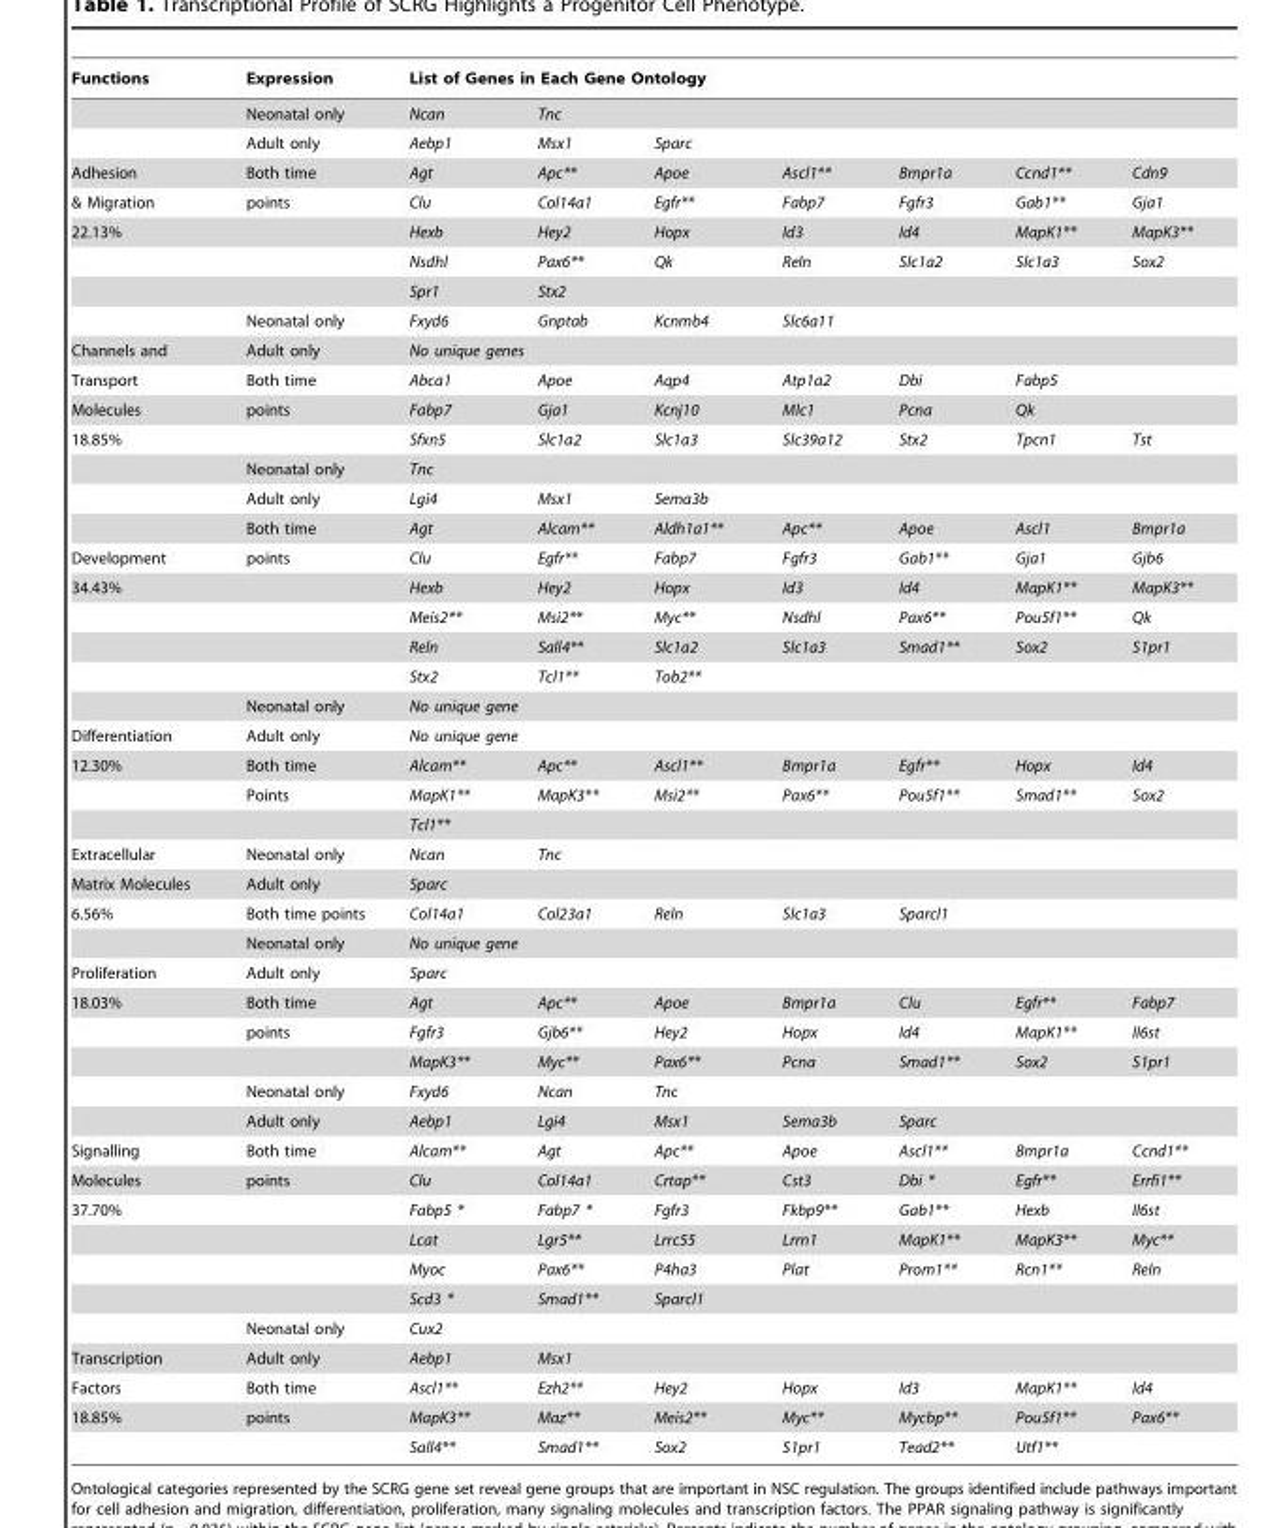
<table><thead><tr><td rowspan="2">Functions</td><td rowspan="2">Expression Neonatal only</td><td colspan="7">List of Genes in Each Gene Ontology</td></tr><tr><td>Ncan</td><td>Tnc</td><td></td><td></td><td></td><td></td><td></td></tr></thead><tbody><tr><td></td><td>Adult only</td><td>Aebp1</td><td>Msx1</td><td>Sparc</td><td></td><td></td><td></td><td></td></tr><tr><td>Adhesion</td><td>Both time</td><td>Agt</td><td>Apc**</td><td>Apoe</td><td>Ascl1**</td><td>Bmpr1a</td><td>Ccnd1**</td><td>Cdn9</td></tr><tr><td>&amp; Migration</td><td>points</td><td>Clu</td><td>Col14a1</td><td>Egfr**</td><td>Fabp7</td><td>Fgfr3</td><td>Gab1**</td><td>Gja1</td></tr><tr><td rowspan="4">22.13%</td><td></td><td>Hexb</td><td>Hey2</td><td>Hopx</td><td>Id3</td><td>Id4</td><td>MapK1**</td><td>MapK3**</td></tr><tr><td></td><td>Nsdhl</td><td>Pax6**</td><td>Qk</td><td>Reln</td><td>Slc1a2</td><td>Slc1a3</td><td>Sox2</td></tr><tr><td></td><td>Spr1</td><td>Stx2</td><td></td><td></td><td></td><td></td><td></td></tr><tr><td>Neonatal only</td><td>Fxyd6</td><td>Gnptab</td><td>Kcnmb4</td><td>Slc6a11</td><td></td><td></td><td></td></tr><tr><td>Channels and</td><td>Adult only</td><td colspan="2">No unique genes</td><td></td><td></td><td></td><td></td><td></td></tr><tr><td>Transport</td><td>Both time</td><td>Abca1</td><td>Apoe</td><td>Aqp4</td><td>Atp1a2</td><td>Dbi</td><td>Fabp5</td><td></td></tr><tr><td>Molecules</td><td>points</td><td>Fabp7</td><td>Gja1</td><td>Kcnj10</td><td>Mlc1</td><td>Pcna</td><td>Qk</td><td></td></tr><tr><td rowspan="4">18.85%</td><td></td><td>Sfxn5</td><td>Slc1a2</td><td>Slc1a3</td><td>Slc39a12</td><td>Stx2</td><td>Tpcn1</td><td>Tst</td></tr><tr><td>Neonatal only</td><td>Tnc</td><td></td><td></td><td></td><td></td><td></td><td></td></tr><tr><td>Adult only</td><td>Lgi4</td><td>Msx1</td><td>Sema3b</td><td></td><td></td><td></td><td></td></tr><tr><td>Both time</td><td>Agt</td><td>Alcam**</td><td>Aldh1a1**</td><td>Apc**</td><td>Apoe</td><td>Ascl1</td><td>Bmpr1a</td></tr><tr><td>Development</td><td>points</td><td>Clu</td><td>Egfr**</td><td>Fabp7</td><td>Fgfr3</td><td>Gab1**</td><td>Gja1</td><td>Gjb6</td></tr><tr><td rowspan="5">34.43%</td><td></td><td>Hexb</td><td>Hey2</td><td>Hopx</td><td>Id3</td><td>Id4</td><td>MapK1**</td><td>MapK3**</td></tr><tr><td></td><td>Meis2**</td><td>Msi2**</td><td>Myc**</td><td>Nsdhl</td><td>Pax6**</td><td>Pou5f1**</td><td>Qk</td></tr><tr><td></td><td>Reln</td><td>Sall4**</td><td>Slc1a2</td><td>Slc1a3</td><td>Smad1**</td><td>Sox2</td><td>S1pr1</td></tr><tr><td></td><td>Stx2</td><td>Tcl1**</td><td>Tob2**</td><td></td><td></td><td></td><td></td></tr><tr><td>Neonatal only</td><td colspan="2">No unique gene</td><td></td><td></td><td></td><td></td><td></td></tr><tr><td>Differentiation</td><td>Adult only</td><td colspan="2">No unique gene</td><td></td><td></td><td></td><td></td><td></td></tr><tr><td rowspan="3">12.30%</td><td>Both time</td><td>Alcam**</td><td>Apc**</td><td>Ascl1**</td><td>Bmpr1a</td><td>Egfr**</td><td>Hopx</td><td>Id4</td></tr><tr><td>Points</td><td>MapK1**</td><td>MapK3**</td><td>Msi2**</td><td>Pax6**</td><td>Pou5f1**</td><td>Smad1**</td><td>Sox2</td></tr><tr><td></td><td>Tcl1**</td><td></td><td></td><td></td><td></td><td></td><td></td></tr><tr><td>Extracellular</td><td>Neonatal only</td><td>Ncan</td><td>Tnc</td><td></td><td></td><td></td><td></td><td></td></tr><tr><td>Matrix Molecules</td><td>Adult only</td><td>Sparc</td><td></td><td></td><td></td><td></td><td></td><td></td></tr><tr><td rowspan="2">6.56%</td><td>Both time points</td><td>Col14a1</td><td>Col23a1</td><td>Reln</td><td>Slc1a3</td><td>Sparcl1</td><td></td><td></td></tr><tr><td>Neonatal only</td><td colspan="2">No unique gene</td><td></td><td></td><td></td><td></td><td></td></tr><tr><td>Proliferation</td><td>Adult only</td><td>Sparc</td><td></td><td></td><td></td><td></td><td></td><td></td></tr><tr><td rowspan="5">18.03%</td><td>Both time</td><td>Agt</td><td>Apc**</td><td>Apoe</td><td>Bmpr1a</td><td>Clu</td><td>Egfr**</td><td>Fabp7</td></tr><tr><td>points</td><td>Fgfr3</td><td>Gjb6**</td><td>Hey2</td><td>Hopx</td><td>Id4</td><td>MapK1**</td><td>II6st</td></tr><tr><td></td><td>MapK3**</td><td>Myc**</td><td>Pax6**</td><td>Pcna</td><td>Smad1**</td><td>Sox2</td><td>S1pr1</td></tr><tr><td>Neonatal only</td><td>Fxyd6</td><td>Ncan</td><td>Tnc</td><td></td><td></td><td></td><td></td></tr><tr><td>Adult only</td><td>Aebp1</td><td>Lgi4</td><td>Msx1</td><td>Sema3b</td><td>Sparc</td><td></td><td></td></tr><tr><td>Signalling</td><td>Both time</td><td>Alcam**</td><td>Agt</td><td>Apc**</td><td>Apoe</td><td>Ascl1**</td><td>Bmpr1a</td><td>Ccnd1**</td></tr><tr><td>Molecules</td><td>points</td><td>Clu</td><td>Col14a1</td><td>Crtap**</td><td>Cst3</td><td>Dbi *</td><td>Egfr**</td><td>Errfi1**</td></tr><tr><td rowspan="5">37.70%</td><td></td><td>Fabp5 *</td><td>Fabp7 *</td><td>Fgfr3</td><td>Fkbp9**</td><td>Gab1**</td><td>Hexb</td><td>Il6st</td></tr><tr><td></td><td>Lcat</td><td>Lgr5**</td><td>Lrrc55</td><td>Lrrn1</td><td>MapK1**</td><td>MapK3**</td><td>Myc**</td></tr><tr><td></td><td>Myoc</td><td>Pax6**</td><td>P4ha3</td><td>Plat</td><td>Prom1**</td><td>Rcn1**</td><td>Reln</td></tr><tr><td></td><td>Scd3 *</td><td>Smad1**</td><td>Sparcl1</td><td></td><td></td><td></td><td></td></tr><tr><td>Neonatal only</td><td>Cux2</td><td></td><td></td><td></td><td></td><td></td><td></td></tr><tr><td>Transcription</td><td>Adult only</td><td>Aebp1</td><td>Msx1</td><td></td><td></td><td></td><td></td><td></td></tr><tr><td>Factors</td><td>Both time</td><td>Ascl1**</td><td>Ezh2**</td><td>Hey2</td><td>Hopx</td><td>Id3</td><td>MapK1**</td><td>Id4</td></tr><tr><td rowspan="2">18.85%</td><td>points</td><td>MapK3**</td><td>Maz**</td><td>Meis2**</td><td>Myc**</td><td>Mycbp**</td><td>Pou5f1**</td><td>Pax6**</td></tr><tr><td></td><td>Sall4**</td><td>Smad1**</td><td>Sox2</td><td>S1pr1</td><td>Tead2**</td><td>Utf1**</td><td></td></tr></tbody></table>